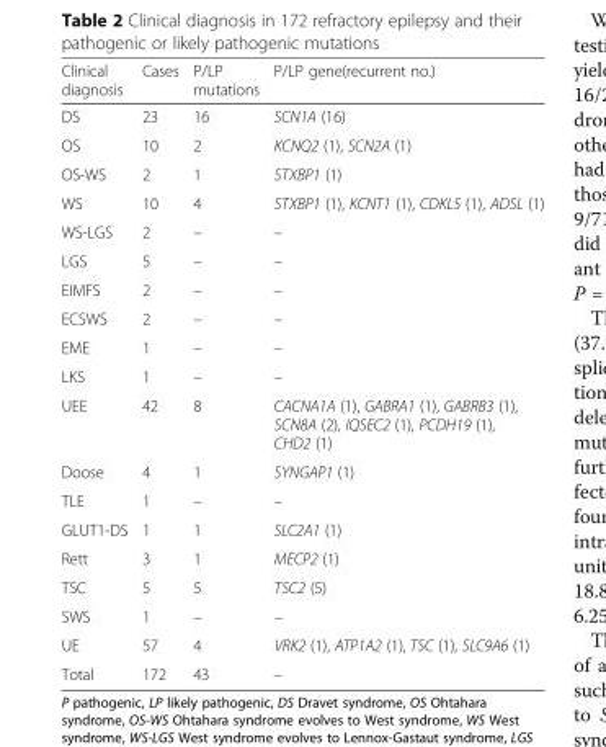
<table><thead><tr><td>Clinical diagnosis</td><td>Cases</td><td>P/LP mutations</td><td>P/LP gene(recurrent no.)</td></tr></thead><tbody><tr><td>DS</td><td>23</td><td>16</td><td>SCN1A (16)</td></tr><tr><td>OS</td><td>10</td><td>2</td><td>KCNQ2 (1), SCN2A (1)</td></tr><tr><td>OS-WS</td><td>2</td><td>1</td><td>STXBP1 (1)</td></tr><tr><td>WS</td><td>10</td><td>4</td><td>STXBP1 (1), KCNT1 (1), CDKL5 (1), ADSL (1)</td></tr><tr><td>WS-LGS</td><td>2</td><td>–</td><td>–</td></tr><tr><td>LGS</td><td>5</td><td>–</td><td>–</td></tr><tr><td>EIMFS</td><td>2</td><td>–</td><td>–</td></tr><tr><td>ECSWS</td><td>2</td><td>–</td><td>–</td></tr><tr><td>EME</td><td>1</td><td>–</td><td>–</td></tr><tr><td>LKS</td><td>1</td><td>–</td><td>–</td></tr><tr><td>UEE</td><td>42</td><td>8</td><td>CACNA1A (1), GABRA1 (1), GABRB3 (1), SCN8A (2), IQSEC2 (1), PCDH19 (1), CHD2 (1)</td></tr><tr><td>Doose</td><td>4</td><td>1</td><td>SYNGAP1 (1)</td></tr><tr><td>TLE</td><td>1</td><td>–</td><td>–</td></tr><tr><td>GLUT1-DS</td><td>1</td><td>1</td><td>SLC2A1 (1)</td></tr><tr><td>Rett</td><td>3</td><td>1</td><td>MECP2 (1)</td></tr><tr><td>TSC</td><td>5</td><td>5</td><td>TSC2 (5)</td></tr><tr><td>SWS</td><td>1</td><td>–</td><td>–</td></tr><tr><td>UE</td><td>57</td><td>4</td><td>VRK2 (1), ATP1A2 (1), TSC (1), SLC9A6 (1)</td></tr><tr><td>Total</td><td>172</td><td>43</td><td>–</td></tr></tbody></table>